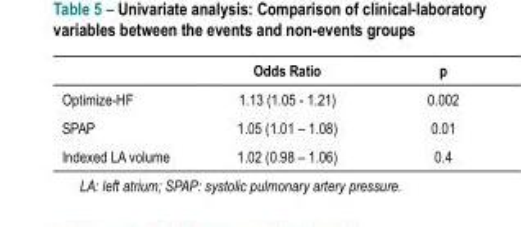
<table><thead><tr><td></td><td>Odds Ratio</td><td>p</td></tr></thead><tbody><tr><td>Optimize-HF</td><td>1.13 (1.05 - 1.21)</td><td>0.002</td></tr><tr><td>SPAP</td><td>1.05 (1.01 – 1.08)</td><td>0.01</td></tr><tr><td>Indexed LA volume</td><td>1.02 (0.98 – 1.06)</td><td>0.4</td></tr></tbody></table>